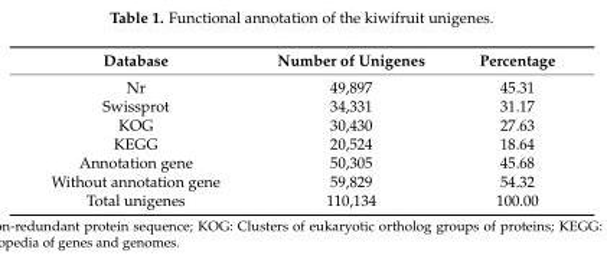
<table><thead><tr><td>Database</td><td>Number of Unigenes</td><td>Percentage</td></tr></thead><tbody><tr><td>Nr</td><td>49,897</td><td>45.31</td></tr><tr><td>Swissprot</td><td>34,331</td><td>31.17</td></tr><tr><td>KOG</td><td>30,430</td><td>27.63</td></tr><tr><td>KEGG</td><td>20,524</td><td>18.64</td></tr><tr><td>Annotation gene</td><td>50,305</td><td>45.68</td></tr><tr><td>Without annotation gene</td><td>59,829</td><td>54.32</td></tr><tr><td>Total unigenes</td><td>110,134</td><td>100.00</td></tr></tbody></table>